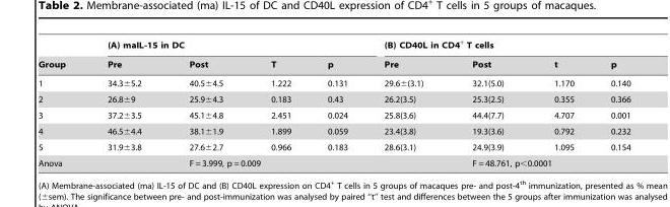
<table><thead><tr><td rowspan="2">Group</td><td colspan="4">(A) maIL-15 in DC</td><td colspan="4">(B) CD40L in CD4<sup>+</sup> T cells</td></tr><tr><td>Pre</td><td>Post</td><td>T</td><td>p</td><td>Pre</td><td>Post</td><td>t</td><td>p</td></tr></thead><tbody><tr><td>1</td><td>34.3±5.2</td><td>40.5±4.5</td><td>1.222</td><td>0.131</td><td>29.6±(3.1)</td><td>32.1(5.0)</td><td>1.170</td><td>0.140</td></tr><tr><td>2</td><td>26.8±9</td><td>25.9±4.3</td><td>0.183</td><td>0.43</td><td>26.2(3.5)</td><td>25.3(2.5)</td><td>0.355</td><td>0.366</td></tr><tr><td>3</td><td>37.2±3.5</td><td>45.1±4.8</td><td>2.451</td><td>0.024</td><td>25.8(3.6)</td><td>44.4(7.7)</td><td>4.707</td><td>0.001</td></tr><tr><td>4</td><td>46.5±4.4</td><td>38.1±1.9</td><td>1.899</td><td>0.059</td><td>23.4(3.8)</td><td>19.3(3.6)</td><td>0.792</td><td>0.232</td></tr><tr><td>5</td><td>31.9±3.8</td><td>27.6±2.7</td><td>0.966</td><td>0.183</td><td>28.6(3.1)</td><td>24.9(3.9)</td><td>1.095</td><td>0.154</td></tr><tr><td colspan="2">Anova</td><td colspan="3">F = 3.999, p = 0.009</td><td></td><td colspan="3">F = 48.761, p&lt;0.0001</td></tr></tbody></table>